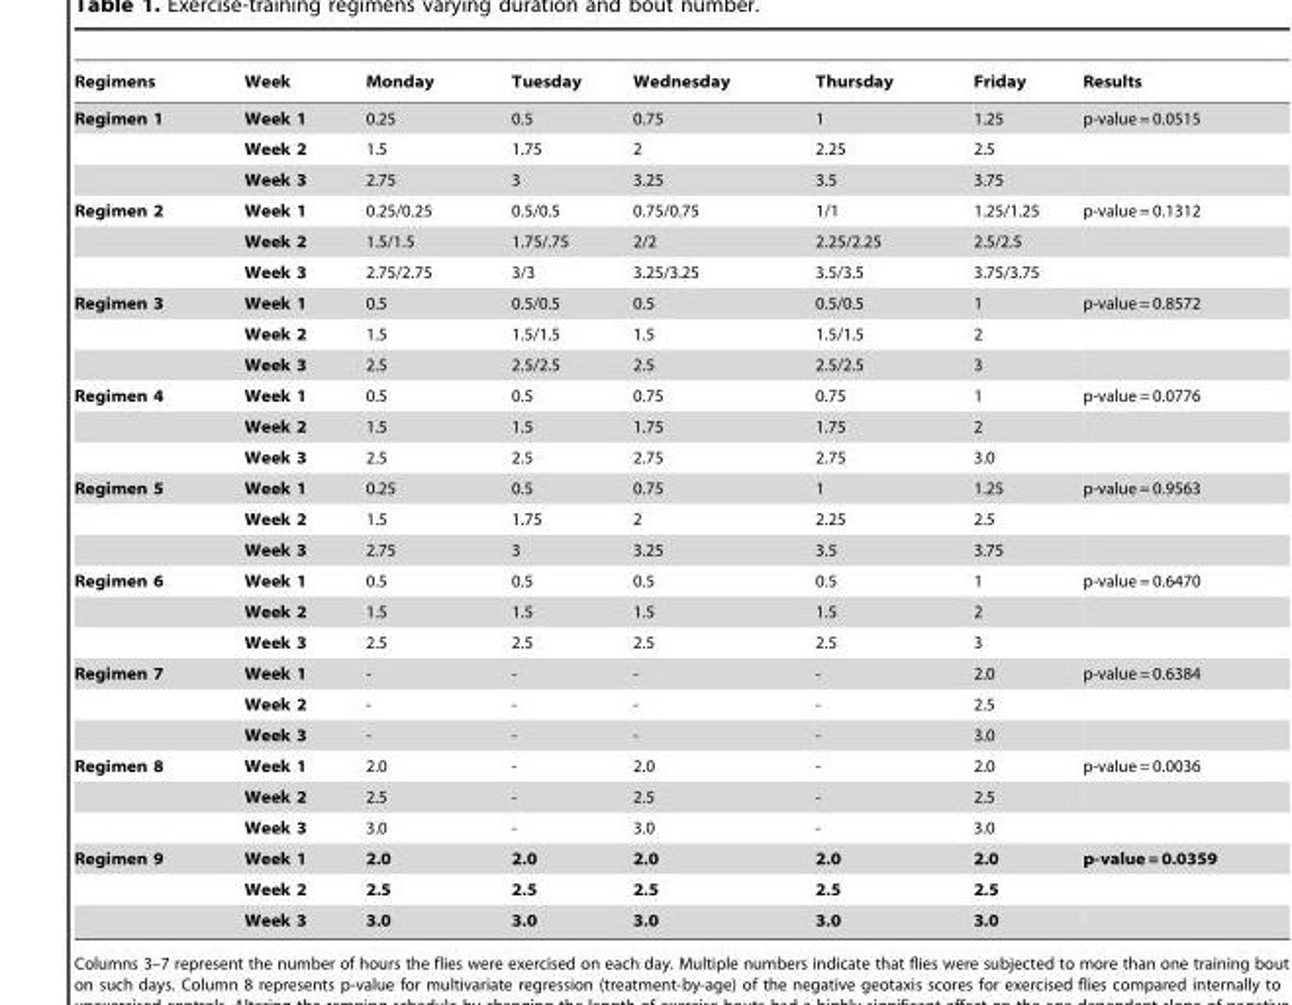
<table><thead><tr><td>Regimens</td><td>Week</td><td>Monday</td><td>Tuesday</td><td>Wednesday</td><td>Thursday</td><td>Friday</td><td>Results</td></tr></thead><tbody><tr><td rowspan="3">Regimen 1</td><td>Week 1</td><td>0.25</td><td>0.5</td><td>0.75</td><td>1</td><td>1.25</td><td>p-value = 0.0515</td></tr><tr><td>Week 2</td><td>1.5</td><td>1.75</td><td>2</td><td>2.25</td><td>2.5</td><td></td></tr><tr><td>Week 3</td><td>2.75</td><td>3</td><td>3.25</td><td>3.5</td><td>3.75</td><td></td></tr><tr><td rowspan="3">Regimen 2</td><td>Week 1</td><td>0.25/0.25</td><td>0.5/0.5</td><td>0.75/0.75</td><td>1/1</td><td>1.25/1.25</td><td>p-value = 0.1312</td></tr><tr><td>Week 2</td><td>1.5/1.5</td><td>1.75/.75</td><td>2/2</td><td>2.25/2.25</td><td>2.5/2.5</td><td></td></tr><tr><td>Week 3</td><td>2.75/2.75</td><td>3/3</td><td>3.25/3.25</td><td>3.5/3.5</td><td>3.75/3.75</td><td></td></tr><tr><td rowspan="3">Regimen 3</td><td>Week 1</td><td>0.5</td><td>0.5/0.5</td><td>0.5</td><td>0.5/0.5</td><td>1</td><td>p-value = 0.8572</td></tr><tr><td>Week 2</td><td>1.5</td><td>1.5/1.5</td><td>1.5</td><td>1.5/1.5</td><td>2</td><td></td></tr><tr><td>Week 3</td><td>2.5</td><td>2.5/2.5</td><td>2.5</td><td>2.5/2.5</td><td>3</td><td></td></tr><tr><td rowspan="3">Regimen 4</td><td>Week 1</td><td>0.5</td><td>0.5</td><td>0.75</td><td>0.75</td><td>1</td><td>p-value = 0.0776</td></tr><tr><td>Week 2</td><td>1.5</td><td>1.5</td><td>1.75</td><td>1.75</td><td>2</td><td></td></tr><tr><td>Week 3</td><td>2.5</td><td>2.5</td><td>2.75</td><td>2.75</td><td>3.0</td><td></td></tr><tr><td rowspan="3">Regimen 5</td><td>Week 1</td><td>0.25</td><td>0.5</td><td>0.75</td><td>1</td><td>1.25</td><td>p-value = 0.9563</td></tr><tr><td>Week 2</td><td>1.5</td><td>1.75</td><td>2</td><td>2.25</td><td>2.5</td><td></td></tr><tr><td>Week 3</td><td>2.75</td><td>3</td><td>3.25</td><td>3.5</td><td>3.75</td><td></td></tr><tr><td rowspan="3">Regimen 6</td><td>Week 1</td><td>0.5</td><td>0.5</td><td>0.5</td><td>0.5</td><td>1</td><td>p-value = 0.6470</td></tr><tr><td>Week 2</td><td>1.5</td><td>1.5</td><td>1.5</td><td>1.5</td><td>2</td><td></td></tr><tr><td>Week 3</td><td>2.5</td><td>2.5</td><td>2.5</td><td>2.5</td><td>3</td><td></td></tr><tr><td rowspan="3">Regimen 7</td><td>Week 1</td><td>-</td><td>-</td><td>-</td><td>-</td><td>2.0</td><td>p-value = 0.6384</td></tr><tr><td>Week 2</td><td>-</td><td>-</td><td>-</td><td>-</td><td>2.5</td><td></td></tr><tr><td>Week 3</td><td>-</td><td>-</td><td>-</td><td>-</td><td>3.0</td><td></td></tr><tr><td rowspan="3">Regimen 8</td><td>Week 1</td><td>2.0</td><td>-</td><td>2.0</td><td>-</td><td>2.0</td><td>p-value = 0.0036</td></tr><tr><td>Week 2</td><td>2.5</td><td>-</td><td>2.5</td><td>-</td><td>2.5</td><td></td></tr><tr><td>Week 3</td><td>3.0</td><td>-</td><td>3.0</td><td>-</td><td>3.0</td><td></td></tr><tr><td rowspan="3">Regimen 9</td><td>Week 1</td><td>2.0</td><td>2.0</td><td>2.0</td><td>2.0</td><td>2.0</td><td>p-value = 0.0359</td></tr><tr><td>Week 2</td><td>2.5</td><td>2.5</td><td>2.5</td><td>2.5</td><td>2.5</td><td></td></tr><tr><td>Week 3</td><td>3.0</td><td>3.0</td><td>3.0</td><td>3.0</td><td>3.0</td><td></td></tr></tbody></table>